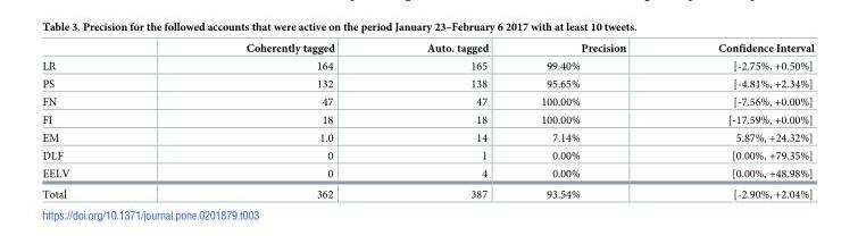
<table><thead><tr><td></td><td>Coherently tagged</td><td>Auto. tagged</td><td>Precision</td><td>Confidence Interval</td></tr></thead><tbody><tr><td>LR</td><td>164</td><td>165</td><td>99.40%</td><td>[-2.75%, +0.50%]</td></tr><tr><td>PS</td><td>132</td><td>138</td><td>95.65%</td><td>[-4.81%, +2.34%]</td></tr><tr><td>FN</td><td>47</td><td>47</td><td>100.00%</td><td>[-7.56%, +0.00%]</td></tr><tr><td>FI</td><td>18</td><td>18</td><td>100.00%</td><td>[-17.59%, +0.00%]</td></tr><tr><td>EM</td><td>1.0</td><td>14</td><td>7.14%</td><td>5.87%, +24.32%]</td></tr><tr><td>DLF</td><td>0</td><td>1</td><td>0.00%</td><td>[0.00%, +79.35%]</td></tr><tr><td>EELV</td><td>0</td><td>4</td><td>0.00%</td><td>[0.00%, +48.98%]</td></tr><tr><td>Total</td><td>362</td><td>387</td><td>93.54%</td><td>[-2.90%, +2.04%]</td></tr></tbody></table>